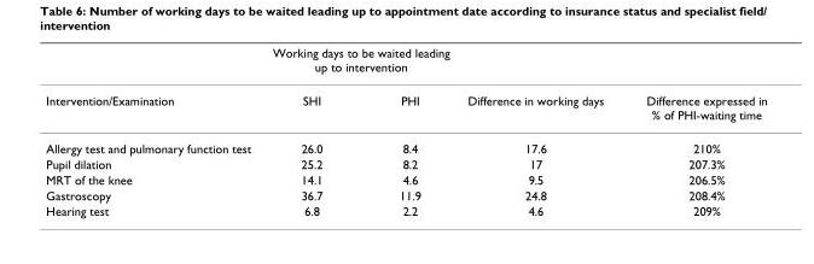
<table><thead><tr><td rowspan="2">Intervention/Examination</td><td colspan="2">Working days to be waited leading up to intervention</td><td rowspan="2">Difference in working days</td><td rowspan="2">Difference expressed in % of PHI-waiting time</td></tr><tr><td>SHI</td><td>PHI</td></tr></thead><tbody><tr><td>Allergy test and pulmonary function test</td><td>26.0</td><td>8.4</td><td>17.6</td><td>210%</td></tr><tr><td>Pupil dilation</td><td>25.2</td><td>8.2</td><td>17</td><td>207.3%</td></tr><tr><td>MRT of the knee</td><td>14.1</td><td>4.6</td><td>9.5</td><td>206.5%</td></tr><tr><td>Gastroscopy</td><td>36.7</td><td>11.9</td><td>24.8</td><td>208.4%</td></tr><tr><td>Hearing test</td><td>6.8</td><td>2.2</td><td>4.6</td><td>209%</td></tr></tbody></table>